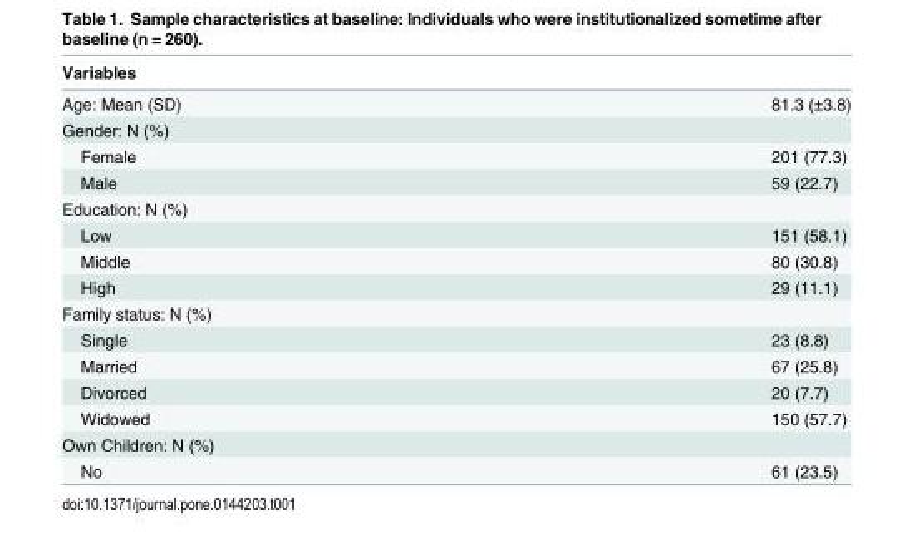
<table><thead><tr><td>Variables</td><td></td></tr></thead><tbody><tr><td>Age: Mean (SD)</td><td>81.3 (±3.8)</td></tr><tr><td colspan="2">Gender: N (%)</td></tr><tr><td>Female</td><td>201 (77.3)</td></tr><tr><td>Male</td><td>59 (22.7)</td></tr><tr><td colspan="2">Education: N (%)</td></tr><tr><td>Low</td><td>151 (58.1)</td></tr><tr><td>Middle</td><td>80 (30.8)</td></tr><tr><td>High</td><td>29 (11.1)</td></tr><tr><td colspan="2">Family status: N (%)</td></tr><tr><td>Single</td><td>23 (8.8)</td></tr><tr><td>Married</td><td>67 (25.8)</td></tr><tr><td>Divorced</td><td>20 (7.7)</td></tr><tr><td>Widowed</td><td>150 (57.7)</td></tr><tr><td colspan="2">Own Children: N (%)</td></tr><tr><td>No</td><td>61 (23.5)</td></tr></tbody></table>